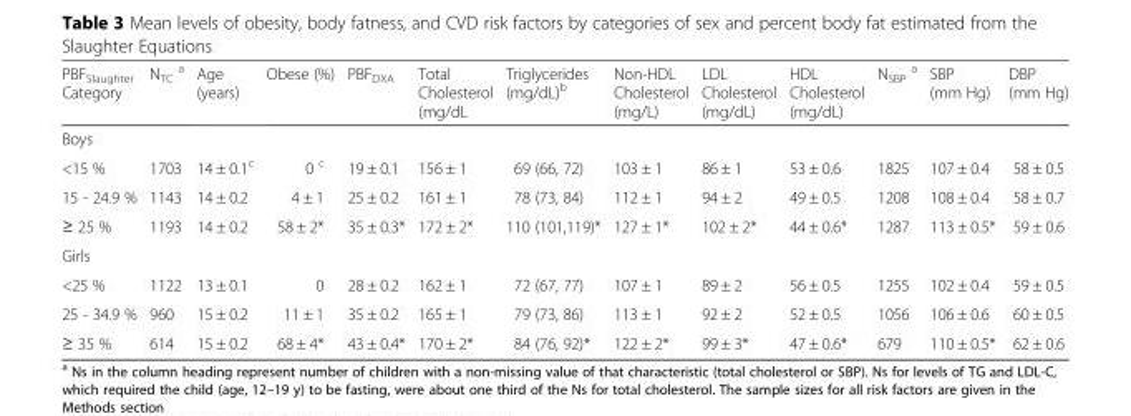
<table><thead><tr><td>PBF<sub>Slaughter</sub> Category</td><td>N<sub>TC</sub> <sup>a</sup></td><td>Age (years)</td><td>Obese (%)</td><td>PBF<sub>DXA</sub></td><td>Total Cholesterol (mg/dL</td><td>Triglycerides (mg/dL)<sup>b</sup></td><td>Non-HDL Cholesterol (mg/L)</td><td>LDL Cholesterol (mg/dL)</td><td>HDL Cholesterol (mg/dL)</td><td>N<sub>SBP</sub> <sup>a</sup></td><td>SBP (mm Hg)</td><td>DBP (mm Hg)</td></tr></thead><tbody><tr><td colspan="13">Boys</td></tr><tr><td>&lt;15 %</td><td>1703</td><td>14 ± 0.1<sup>c</sup></td><td>0 <sup>c</sup></td><td>19 ± 0.1</td><td>156 ± 1</td><td>69 (66, 72)</td><td>103 ± 1</td><td>86 ± 1</td><td>53 ± 0.6</td><td>1825</td><td>107 ± 0.4</td><td>58 ± 0.5</td></tr><tr><td>15 - 24.9 %</td><td>1143</td><td>14 ± 0.2</td><td>4 ± 1</td><td>25 ± 0.2</td><td>161 ± 1</td><td>78 (73, 84)</td><td>112 ± 1</td><td>94 ± 2</td><td>49 ± 0.5</td><td>1208</td><td>108 ± 0.4</td><td>58 ± 0.7</td></tr><tr><td>≥ 25 %</td><td>1193</td><td>14 ± 0.2</td><td>58 ± 2*</td><td>35 ± 0.3*</td><td>172 ± 2*</td><td>110 (101,119)*</td><td>127 ± 1*</td><td>102 ± 2*</td><td>44 ± 0.6*</td><td>1287</td><td>113 ± 0.5*</td><td>59 ± 0.6</td></tr><tr><td colspan="13">Girls</td></tr><tr><td>&lt;25 %</td><td>1122</td><td>13 ± 0.1</td><td>0</td><td>28 ± 0.2</td><td>162 ± 1</td><td>72 (67, 77)</td><td>107 ± 1</td><td>89 ± 2</td><td>56 ± 0.5</td><td>1255</td><td>102 ± 0.4</td><td>59 ± 0.5</td></tr><tr><td>25 - 34.9 %</td><td>960</td><td>15 ± 0.2</td><td>11 ± 1</td><td>35 ± 0.2</td><td>165 ± 1</td><td>79 (73, 86)</td><td>113 ± 1</td><td>92 ± 2</td><td>52 ± 0.5</td><td>1056</td><td>106 ± 0.6</td><td>60 ± 0.5</td></tr><tr><td>≥ 35 %</td><td>614</td><td>15 ± 0.2</td><td>68 ± 4*</td><td>43 ± 0.4*</td><td>170 ± 2*</td><td>84 (76, 92)*</td><td>122 ± 2*</td><td>99 ± 3*</td><td>47 ± 0.6*</td><td>679</td><td>110 ± 0.5*</td><td>62 ± 0.6</td></tr></tbody></table>